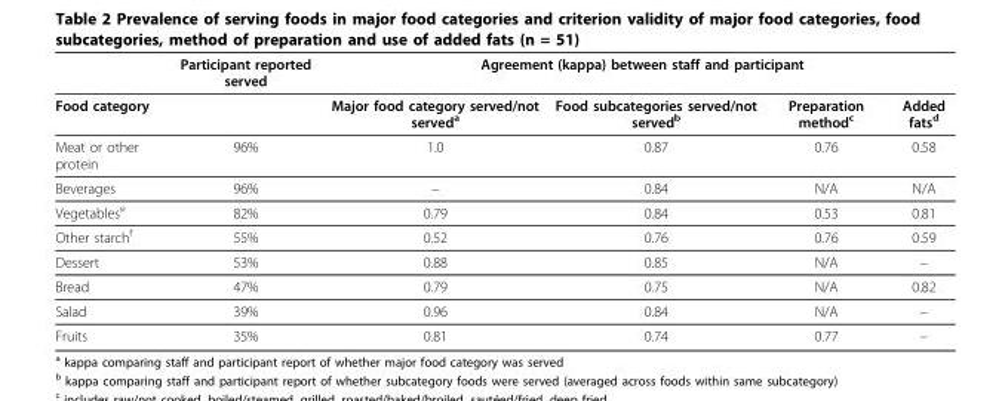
<table><thead><tr><td rowspan="2">Food category</td><td rowspan="2">Participant reported served</td><td colspan="4">Agreement (kappa) between staff and participant</td></tr><tr><td>Major food category served/not served<sup>a</sup></td><td>Food subcategories served/not served<sup>b</sup></td><td>Preparation method<sup>c</sup></td><td>Added fats<sup>d</sup></td></tr></thead><tbody><tr><td>Meat or other protein</td><td>96%</td><td>1.0</td><td>0.87</td><td>0.76</td><td>0.58</td></tr><tr><td>Beverages</td><td>96%</td><td>–</td><td>0.84</td><td>N/A</td><td>N/A</td></tr><tr><td>Vegetables<sup>e</sup></td><td>82%</td><td>0.79</td><td>0.84</td><td>0.53</td><td>0.81</td></tr><tr><td>Other starch<sup>f</sup></td><td>55%</td><td>0.52</td><td>0.76</td><td>0.76</td><td>0.59</td></tr><tr><td>Dessert</td><td>53%</td><td>0.88</td><td>0.85</td><td>N/A</td><td>–</td></tr><tr><td>Bread</td><td>47%</td><td>0.79</td><td>0.75</td><td>N/A</td><td>0.82</td></tr><tr><td>Salad</td><td>39%</td><td>0.96</td><td>0.84</td><td>N/A</td><td>–</td></tr><tr><td>Fruits</td><td>35%</td><td>0.81</td><td>0.74</td><td>0.77</td><td>–</td></tr></tbody></table>